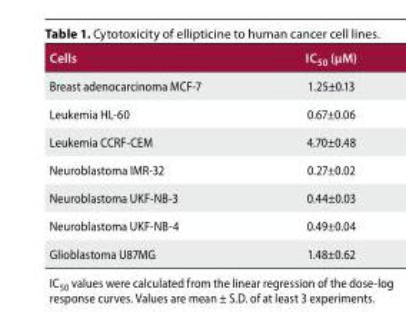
<table><thead><tr><td>Cells</td><td>IC<sub>50</sub> (μM)</td></tr></thead><tbody><tr><td>Breast adenocarcinoma MCF-7</td><td>1.25±0.13</td></tr><tr><td>Leukemia HL-60</td><td>0.67±0.06</td></tr><tr><td>Leukemia CCRF-CEM</td><td>4.70±0.48</td></tr><tr><td>Neuroblastoma IMR-32</td><td>0.27±0.02</td></tr><tr><td>Neuroblastoma UKF-NB-3</td><td>0.44±0.03</td></tr><tr><td>Neuroblastoma UKF-NB-4</td><td>0.49±0.04</td></tr><tr><td>Glioblastoma U87MG</td><td>1.48±0.62</td></tr></tbody></table>